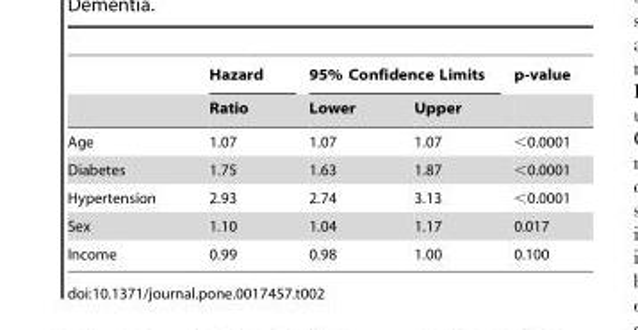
<table><thead><tr><td rowspan="2"></td><td rowspan="2">Hazard Ratio</td><td colspan="2">95% Confidence Limits</td><td rowspan="2">p-value</td></tr><tr><td>Lower</td><td>Upper</td></tr></thead><tbody><tr><td>Age</td><td>1.07</td><td>1.07</td><td>1.07</td><td>&lt;0.0001</td></tr><tr><td>Diabetes</td><td>1.75</td><td>1.63</td><td>1.87</td><td>&lt;0.0001</td></tr><tr><td>Hypertension</td><td>2.93</td><td>2.74</td><td>3.13</td><td>&lt;0.0001</td></tr><tr><td>Sex</td><td>1.10</td><td>1.04</td><td>1.17</td><td>0.017</td></tr><tr><td>Income</td><td>0.99</td><td>0.98</td><td>1.00</td><td>0.100</td></tr></tbody></table>